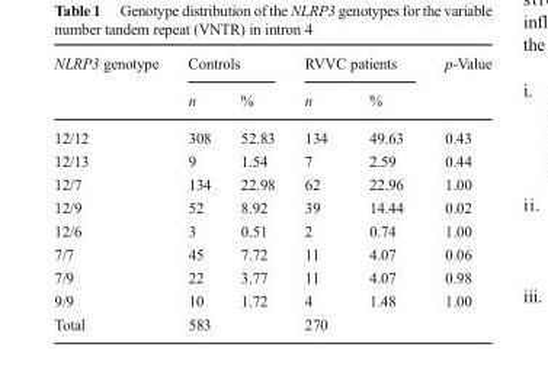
<table><thead><tr><td rowspan="2">NLRP3 genotype</td><td colspan="2">Controls</td><td colspan="2">RVVC patients</td><td rowspan="2">p-Value</td></tr><tr><td>n</td><td>%</td><td>n</td><td>%</td></tr></thead><tbody><tr><td>12/12</td><td>308</td><td>52.83</td><td>134</td><td>49.63</td><td>0.43</td></tr><tr><td>12/13</td><td>9</td><td>1.54</td><td>7</td><td>2.59</td><td>0.44</td></tr><tr><td>12/7</td><td>134</td><td>22.98</td><td>62</td><td>22.96</td><td>1.00</td></tr><tr><td>12/9</td><td>52</td><td>8.92</td><td>39</td><td>14.44</td><td>0.02</td></tr><tr><td>12/6</td><td>3</td><td>0.51</td><td>2</td><td>0.74</td><td>1.00</td></tr><tr><td>7/7</td><td>45</td><td>7.72</td><td>11</td><td>4.07</td><td>0.06</td></tr><tr><td>7/9</td><td>22</td><td>3.77</td><td>11</td><td>4.07</td><td>0.98</td></tr><tr><td>9/9</td><td>10</td><td>1.72</td><td>4</td><td>1.48</td><td>1.00</td></tr><tr><td>Total</td><td>583</td><td></td><td>270</td><td></td><td></td></tr></tbody></table>